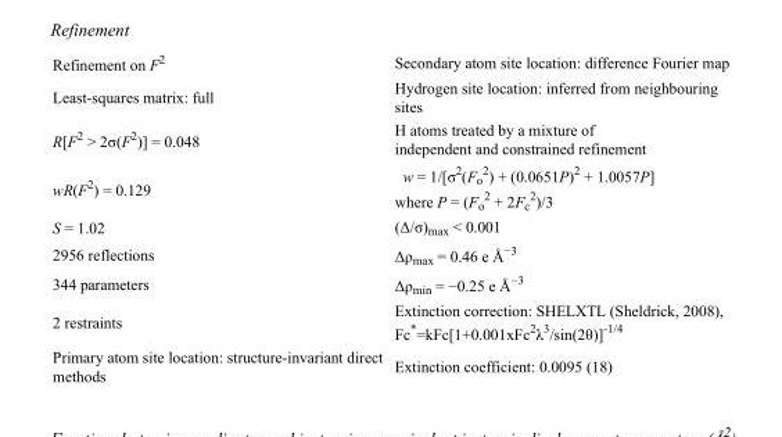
<table><tbody><tr><td>Refinement on F<sup>2</sup></td><td>Secondary atom site location: difference Fourier map</td></tr><tr><td>Least-squares matrix: full</td><td>Hydrogen site location: inferred from neighbouring sites</td></tr><tr><td>R[F<sup>2</sup> &gt; 2σ(F<sup>2</sup>)] = 0.048</td><td>H atoms treated by a mixture of independent and constrained refinement</td></tr><tr><td>wR(F<sup>2</sup>) = 0.129</td><td>w = 1/[σ<sup>2</sup>(F<sub>o</sub> <sup>2</sup>) + (0.0651P)<sup>2</sup> + 1.0057P] where P = (F<sub>o</sub> <sup>2</sup> + 2F<sub>c</sub> <sup>2</sup>)/3</td></tr><tr><td>S = 1.02</td><td>(Δ/σ)<sub>max</sub> &lt; 0.001</td></tr><tr><td>2956 reflections</td><td>Δρ<sub>max</sub> = 0.46 e Å<sup>−3</sup></td></tr><tr><td>344 parameters</td><td>Δρ<sub>min</sub> = −0.25 e Å<sup>−3</sup></td></tr><tr><td>2 restraints</td><td>Extinction correction: SHELXTL (Sheldrick, 2008), Fc*=kFc[1+0.001xFc<sup>2</sup>λ<sup>3</sup>/sin(2θ)]<sup>-1/4</sup></td></tr><tr><td>Primary atom site location: structure-invariant direct methods</td><td>Extinction coefficient: 0.0095 (18)</td></tr></tbody></table>